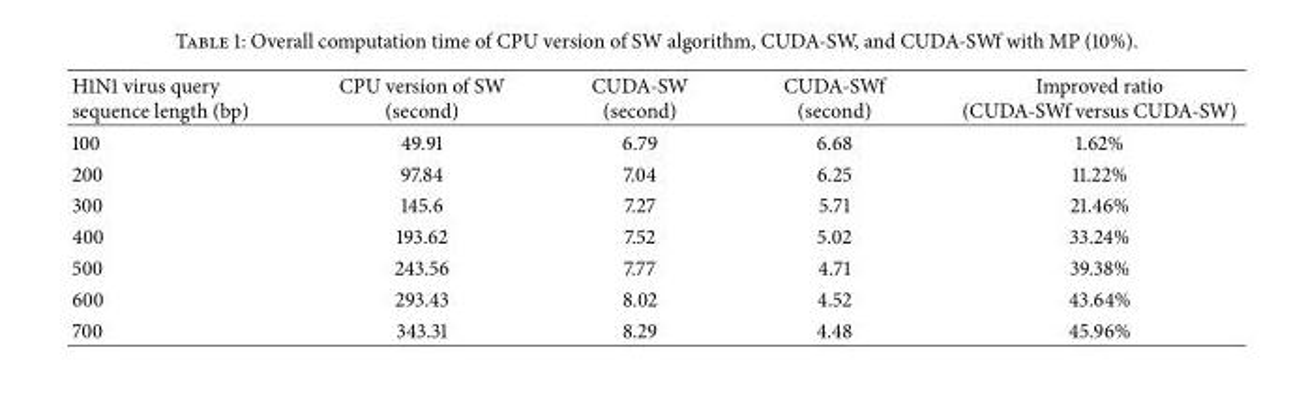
<table><thead><tr><td>H1N1 virus query sequence length (bp)</td><td>CPU version of SW (second)</td><td>CUDA-SW (second)</td><td>CUDA-SWf (second)</td><td>Improved ratio (CUDA-SWf versus CUDA-SW)</td></tr></thead><tbody><tr><td>100</td><td>49.91</td><td>6.79</td><td>6.68</td><td>1.62%</td></tr><tr><td>200</td><td>97.84</td><td>7.04</td><td>6.25</td><td>11.22%</td></tr><tr><td>300</td><td>145.6</td><td>7.27</td><td>5.71</td><td>21.46%</td></tr><tr><td>400</td><td>193.62</td><td>7.52</td><td>5.02</td><td>33.24%</td></tr><tr><td>500</td><td>243.56</td><td>7.77</td><td>4.71</td><td>39.38%</td></tr><tr><td>600</td><td>293.43</td><td>8.02</td><td>4.52</td><td>43.64%</td></tr><tr><td>700</td><td>343.31</td><td>8.29</td><td>4.48</td><td>45.96%</td></tr></tbody></table>